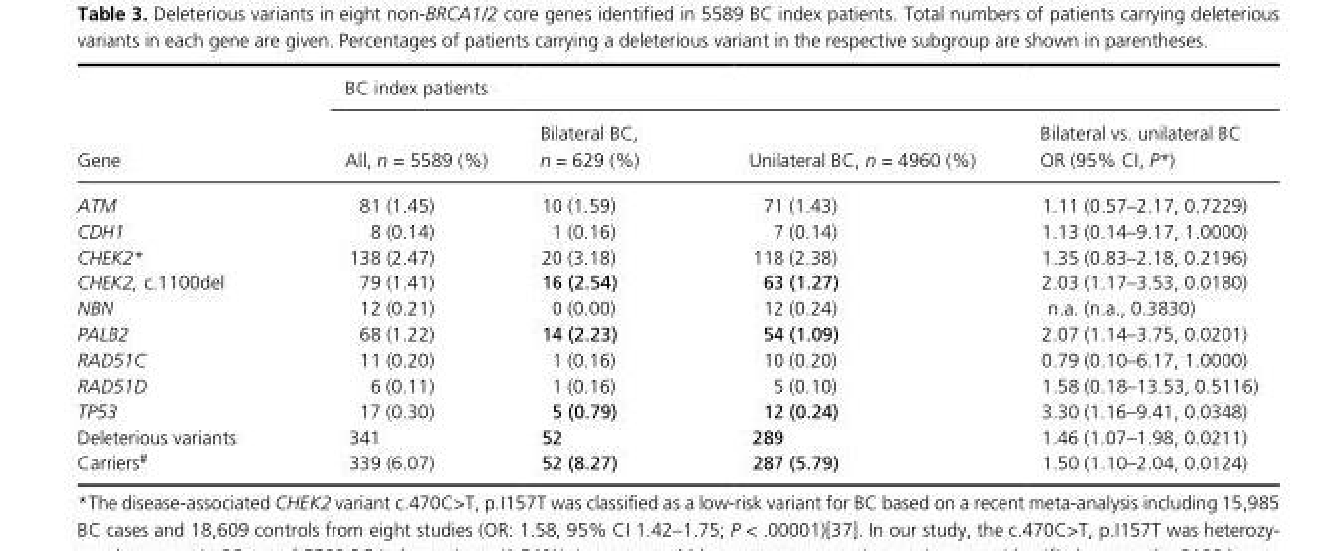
<table><thead><tr><td rowspan="2">Gene</td><td colspan="4">BC index patients</td></tr><tr><td>All, n = 5589 (%)</td><td>Bilateral BC, n = 629 (%)</td><td>Unilateral BC, n = 4960 (%)</td><td>Bilateral vs. unilateral BC OR (95% CI, P*)</td></tr></thead><tbody><tr><td>ATM</td><td>81 (1.45)</td><td>10 (1.59)</td><td>71 (1.43)</td><td>1.11 (0.57–2.17, 0.7229)</td></tr><tr><td>CDH1</td><td>8 (0.14)</td><td>1 (0.16)</td><td>7 (0.14)</td><td>1.13 (0.14–9.17, 1.0000)</td></tr><tr><td>CHEK2*</td><td>138 (2.47)</td><td>20 (3.18)</td><td>118 (2.38)</td><td>1.35 (0.83–2.18, 0.2196)</td></tr><tr><td>CHEK2, c.1100del</td><td>79 (1.41)</td><td>16 (2.54)</td><td>63 (1.27)</td><td>2.03 (1.17–3.53, 0.0180)</td></tr><tr><td>NBN</td><td>12 (0.21)</td><td>0 (0.00)</td><td>12 (0.24)</td><td>n.a. (n.a., 0.3830)</td></tr><tr><td>PALB2</td><td>68 (1.22)</td><td>14 (2.23)</td><td>54 (1.09)</td><td>2.07 (1.14–3.75, 0.0201)</td></tr><tr><td>RAD51C</td><td>11 (0.20)</td><td>1 (0.16)</td><td>10 (0.20)</td><td>0.79 (0.10–6.17, 1.0000)</td></tr><tr><td>RAD51D</td><td>6 (0.11)</td><td>1 (0.16)</td><td>5 (0.10)</td><td>1.58 (0.18–13.53, 0.5116)</td></tr><tr><td>TP53</td><td>17 (0.30)</td><td>5 (0.79)</td><td>12 (0.24)</td><td>3.30 (1.16–9.41, 0.0348)</td></tr><tr><td>Deleterious variants</td><td>341</td><td>52</td><td>289</td><td>1.46 (1.07–1.98, 0.0211)</td></tr><tr><td>Carriers#</td><td>339 (6.07)</td><td>52 (8.27)</td><td>287 (5.79)</td><td>1.50 (1.10–2.04, 0.0124)</td></tr></tbody></table>